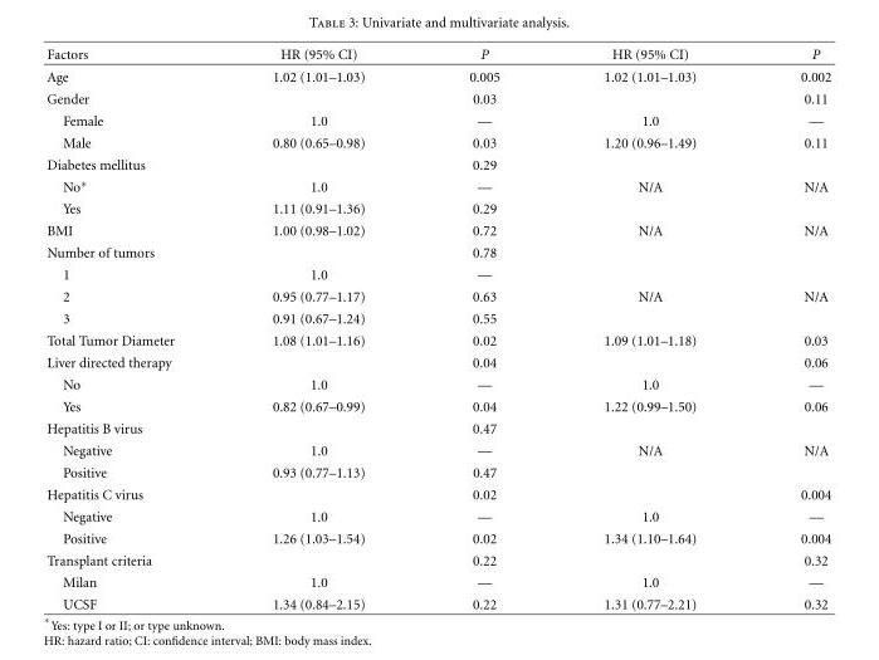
<table><thead><tr><td>Factors</td><td>HR (95% CI)</td><td>P</td><td>HR (95% CI)</td><td>P</td></tr></thead><tbody><tr><td>Age</td><td>1.02 (1.01–1.03)</td><td>0.005</td><td>1.02 (1.01–1.03)</td><td>0.002</td></tr><tr><td>Gender</td><td></td><td>0.03</td><td></td><td>0.11</td></tr><tr><td>Female</td><td>1.0</td><td>—</td><td>1.0</td><td>—</td></tr><tr><td>Male</td><td>0.80 (0.65–0.98)</td><td>0.03</td><td>1.20 (0.96–1.49)</td><td>0.11</td></tr><tr><td>Diabetes mellitus</td><td></td><td>0.29</td><td></td><td></td></tr><tr><td>No∗</td><td>1.0</td><td>—</td><td>N/A</td><td>N/A</td></tr><tr><td>Yes</td><td>1.11 (0.91–1.36)</td><td>0.29</td><td></td><td></td></tr><tr><td>BMI</td><td>1.00 (0.98–1.02)</td><td>0.72</td><td>N/A</td><td>N/A</td></tr><tr><td>Number of tumors</td><td></td><td>0.78</td><td></td><td></td></tr><tr><td>1</td><td>1.0</td><td>—</td><td></td><td></td></tr><tr><td>2</td><td>0.95 (0.77–1.17)</td><td>0.63</td><td>N/A</td><td>N/A</td></tr><tr><td>3</td><td>0.91 (0.67–1.24)</td><td>0.55</td><td></td><td></td></tr><tr><td>Total Tumor Diameter</td><td>1.08 (1.01–1.16)</td><td>0.02</td><td>1.09 (1.01–1.18)</td><td>0.03</td></tr><tr><td>Liver directed therapy</td><td></td><td>0.04</td><td></td><td>0.06</td></tr><tr><td>No</td><td>1.0</td><td>—</td><td>1.0</td><td>—</td></tr><tr><td>Yes</td><td>0.82 (0.67–0.99)</td><td>0.04</td><td>1.22 (0.99–1.50)</td><td>0.06</td></tr><tr><td>Hepatitis B virus</td><td></td><td>0.47</td><td></td><td></td></tr><tr><td>Negative</td><td>1.0</td><td>—</td><td>N/A</td><td>N/A</td></tr><tr><td>Positive</td><td>0.93 (0.77–1.13)</td><td>0.47</td><td></td><td></td></tr><tr><td>Hepatitis C virus</td><td></td><td>0.02</td><td></td><td>0.004</td></tr><tr><td>Negative</td><td>1.0</td><td>—</td><td>1.0</td><td>—</td></tr><tr><td>Positive</td><td>1.26 (1.03–1.54)</td><td>0.02</td><td>1.34 (1.10–1.64)</td><td>0.004</td></tr><tr><td>Transplant criteria</td><td></td><td>0.22</td><td></td><td>0.32</td></tr><tr><td>Milan</td><td>1.0</td><td>—</td><td>1.0</td><td>—</td></tr><tr><td>UCSF</td><td>1.34 (0.84–2.15)</td><td>0.22</td><td>1.31 (0.77–2.21)</td><td>0.32</td></tr></tbody></table>